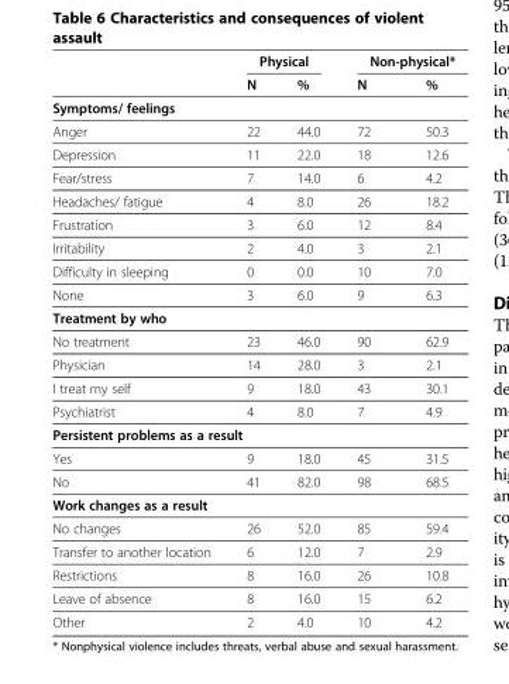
<table><thead><tr><td rowspan="2"></td><td colspan="2">Physical</td><td colspan="2">Non-physical*</td></tr><tr><td>N</td><td>%</td><td>N</td><td>%</td></tr></thead><tbody><tr><td colspan="5">Symptoms/ feelings</td></tr><tr><td>Anger</td><td>22</td><td>44.0</td><td>72</td><td>50.3</td></tr><tr><td>Depression</td><td>11</td><td>22.0</td><td>18</td><td>12.6</td></tr><tr><td>Fear/stress</td><td>7</td><td>14.0</td><td>6</td><td>4.2</td></tr><tr><td>Headaches/ fatigue</td><td>4</td><td>8.0</td><td>26</td><td>18.2</td></tr><tr><td>Frustration</td><td>3</td><td>6.0</td><td>12</td><td>8.4</td></tr><tr><td>Irritability</td><td>2</td><td>4.0</td><td>3</td><td>2.1</td></tr><tr><td>Difficulty in sleeping</td><td>0</td><td>0.0</td><td>10</td><td>7.0</td></tr><tr><td>None</td><td>3</td><td>6.0</td><td>9</td><td>6.3</td></tr><tr><td colspan="5">Treatment by who</td></tr><tr><td>No treatment</td><td>23</td><td>46.0</td><td>90</td><td>62.9</td></tr><tr><td>Physician</td><td>14</td><td>28.0</td><td>3</td><td>2.1</td></tr><tr><td>I treat my self</td><td>9</td><td>18.0</td><td>43</td><td>30.1</td></tr><tr><td>Psychiatrist</td><td>4</td><td>8.0</td><td>7</td><td>4.9</td></tr><tr><td colspan="5">Persistent problems as a result</td></tr><tr><td>Yes</td><td>9</td><td>18.0</td><td>45</td><td>31.5</td></tr><tr><td>No</td><td>41</td><td>82.0</td><td>98</td><td>68.5</td></tr><tr><td colspan="5">Work changes as a result</td></tr><tr><td>No changes</td><td>26</td><td>52.0</td><td>85</td><td>59.4</td></tr><tr><td>Transfer to another location</td><td>6</td><td>12.0</td><td>7</td><td>2.9</td></tr><tr><td>Restrictions</td><td>8</td><td>16.0</td><td>26</td><td>10.8</td></tr><tr><td>Leave of absence</td><td>8</td><td>16.0</td><td>15</td><td>6.2</td></tr><tr><td>Other</td><td>2</td><td>4.0</td><td>10</td><td>4.2</td></tr></tbody></table>